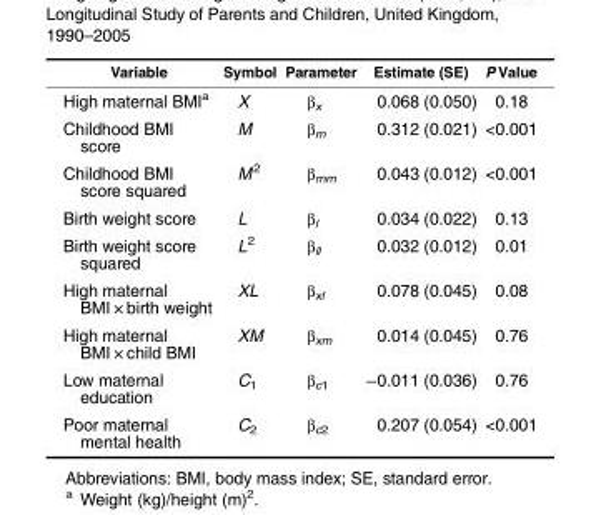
<table><thead><tr><td>Variable</td><td>Symbol</td><td>Parameter</td><td>Estimate (SE)</td><td>P Value</td></tr></thead><tbody><tr><td>High maternal BMI<sup>a</sup></td><td>X</td><td>β<sub>x</sub></td><td>0.068 (0.050)</td><td>0.18</td></tr><tr><td>Childhood BMI score</td><td>M</td><td>β<sub>m</sub></td><td>0.312 (0.021)</td><td>&lt;0.001</td></tr><tr><td>Childhood BMI score squared</td><td>M <sup>2</sup></td><td>β<sub>mm</sub></td><td>0.043 (0.012)</td><td>&lt;0.001</td></tr><tr><td>Birth weight score</td><td>L</td><td>β<sub>l</sub></td><td>0.034 (0.022)</td><td>0.13</td></tr><tr><td>Birth weight score squared</td><td>L<sup>2</sup></td><td>β<sub>ll</sub></td><td>0.032 (0.012)</td><td>0.01</td></tr><tr><td>High maternal BMI × birth weight</td><td>XL</td><td>β<sub>xl</sub></td><td>0.078 (0.045)</td><td>0.08</td></tr><tr><td>High maternal BMI × child BMI</td><td>XM</td><td>β<sub>xm</sub></td><td>0.014 (0.045)</td><td>0.76</td></tr><tr><td>Low maternal education</td><td>C<sub>1</sub></td><td>β<sub>c1</sub></td><td>−0.011 (0.036)</td><td>0.76</td></tr><tr><td>Poor maternal mental health</td><td>C<sub>2</sub></td><td>β<sub>c2</sub></td><td>0.207 (0.054)</td><td>&lt;0.001</td></tr></tbody></table>